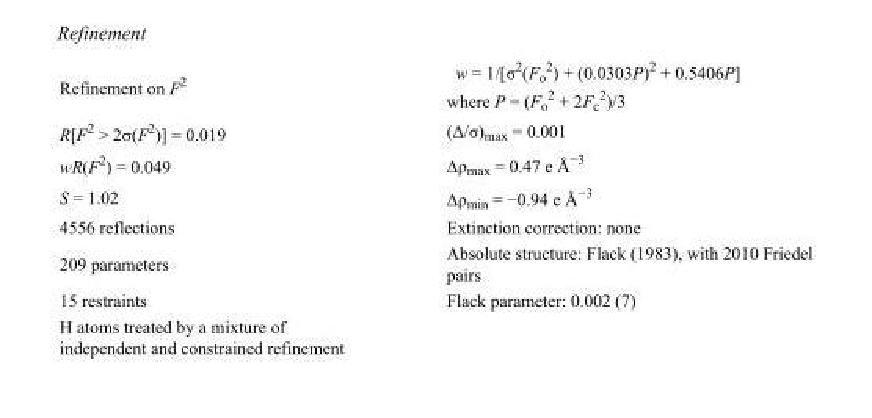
<table><tbody><tr><td>Refinement on F<sup>2</sup></td><td>w = 1/[σ<sup>2</sup>(F<sub>o</sub> <sup>2</sup>) + (0.0303P)<sup>2</sup> + 0.5406P] where P = (F<sub>o</sub> <sup>2</sup> + 2F<sub>c</sub> <sup>2</sup>)/3</td></tr><tr><td>R[F<sup>2</sup> &gt; 2σ(F<sup>2</sup>)] = 0.019</td><td>(Δ/σ)<sub>max</sub> = 0.001</td></tr><tr><td>wR(F<sup>2</sup>) = 0.049</td><td>Δρ<sub>max</sub> = 0.47 e Å<sup>−3</sup></td></tr><tr><td>S = 1.02</td><td>Δρ<sub>min</sub> = −0.94 e Å<sup>−3</sup></td></tr><tr><td>4556 reflections</td><td>Extinction correction: none</td></tr><tr><td>209 parameters</td><td>Absolute structure: Flack (1983), with 2010 Friedel pairs</td></tr><tr><td>15 restraints</td><td>Flack parameter: 0.002 (7)</td></tr><tr><td>H atoms treated by a mixture of independent and constrained refinement</td><td></td></tr></tbody></table>